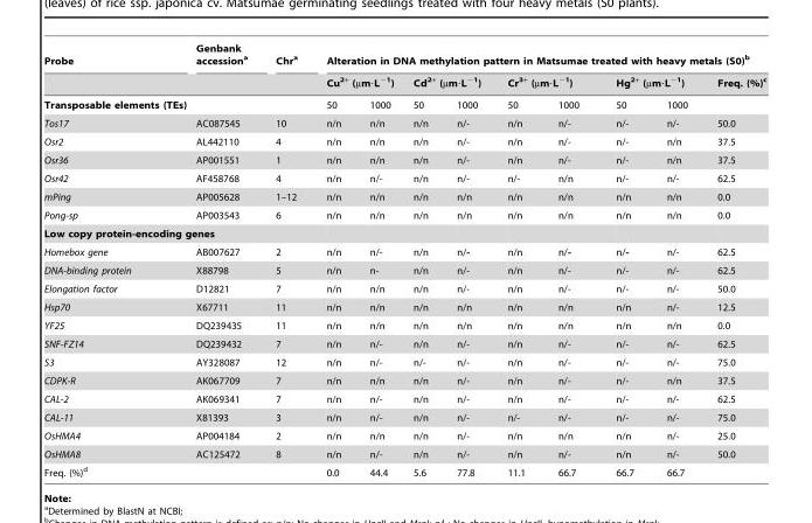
<table><thead><tr><td rowspan="2">Probe</td><td rowspan="2">Genbank accession<sup>a</sup></td><td rowspan="2">Chr<sup>a</sup></td><td colspan="9">Alteration in DNA methylation pattern in Matsumae treated with heavy metals (S0)<sup>b</sup></td></tr><tr><td colspan="2">Cu<sup>2+</sup> (µm⋅L<sup>−1</sup>)</td><td colspan="2">Cd<sup>2+</sup> (µm⋅L<sup>−1</sup>)</td><td colspan="2">Cr<sup>3+</sup> (µm⋅L<sup>−1</sup>)</td><td colspan="2">Hg<sup>2+</sup> (µm⋅L<sup>−1</sup>)</td><td rowspan="2">Freq. (%)<sup>c</sup></td></tr><tr><td colspan="3">Transposable elements (TEs)</td><td>50</td><td>1000</td><td>50</td><td>1000</td><td>50</td><td>1000</td><td>50</td><td>1000</td></tr></thead><tbody><tr><td>Tos17</td><td>AC087545</td><td>10</td><td>n/n</td><td>n/n</td><td>n/n</td><td>n/-</td><td>n/n</td><td>n/-</td><td>n/-</td><td>n/-</td><td>50.0</td></tr><tr><td>Osr2</td><td>AL442110</td><td>4</td><td>n/n</td><td>n/n</td><td>n/n</td><td>n/-</td><td>n/n</td><td>n/-</td><td>n/-</td><td>n/n</td><td>37.5</td></tr><tr><td>Osr36</td><td>AP001551</td><td>1</td><td>n/n</td><td>n/n</td><td>n/n</td><td>n/-</td><td>n/n</td><td>n/-</td><td>n/-</td><td>n/n</td><td>37.5</td></tr><tr><td>Osr42</td><td>AF458768</td><td>4</td><td>n/n</td><td>n/-</td><td>n/n</td><td>n/-</td><td>n/-</td><td>n/n</td><td>n/-</td><td>n/-</td><td>62.5</td></tr><tr><td>mPing</td><td>AP005628</td><td>1–12</td><td>n/n</td><td>n/n</td><td>n/n</td><td>n/n</td><td>n/n</td><td>n/n</td><td>n/n</td><td>n/n</td><td>0.0</td></tr><tr><td>Pong-sp</td><td>AP003543</td><td>6</td><td>n/n</td><td>n/n</td><td>n/n</td><td>n/n</td><td>n/n</td><td>n/n</td><td>n/n</td><td>n/n</td><td>0.0</td></tr><tr><td colspan="12">Low copy protein-encoding genes</td></tr><tr><td>Homebox gene</td><td>AB007627</td><td>2</td><td>n/n</td><td>n/-</td><td>n/n</td><td>n/-</td><td>n/n</td><td>n/-</td><td>n/-</td><td>n/-</td><td>62.5</td></tr><tr><td>DNA-binding protein</td><td>X88798</td><td>5</td><td>n/n</td><td>n-</td><td>n/n</td><td>n/-</td><td>n/n</td><td>n/-</td><td>n/-</td><td>n/-</td><td>62.5</td></tr><tr><td>Elongation factor</td><td>D12821</td><td>7</td><td>n/n</td><td>n/n</td><td>n/n</td><td>n/-</td><td>n/n</td><td>n/-</td><td>n/-</td><td>n/-</td><td>50.0</td></tr><tr><td>Hsp70</td><td>X67711</td><td>11</td><td>n/n</td><td>n/n</td><td>n/n</td><td>n/n</td><td>n/n</td><td>n/n</td><td>n/n</td><td>n/-</td><td>12.5</td></tr><tr><td>YF25</td><td>DQ239435</td><td>11</td><td>n/n</td><td>n/n</td><td>n/n</td><td>n/n</td><td>n/n</td><td>n/n</td><td>n/n</td><td>n/n</td><td>0.0</td></tr><tr><td>SNF-FZ14</td><td>DQ239432</td><td>7</td><td>n/n</td><td>n/-</td><td>n/n</td><td>n/-</td><td>n/n</td><td>n/-</td><td>n/-</td><td>n/-</td><td>62.5</td></tr><tr><td>S3</td><td>AY328087</td><td>12</td><td>n/n</td><td>n/-</td><td>n/-</td><td>n/-</td><td>n/n</td><td>n/-</td><td>n/-</td><td>n/-</td><td>75.0</td></tr><tr><td>CDPK-R</td><td>AK067709</td><td>7</td><td>n/n</td><td>n/n</td><td>n/n</td><td>n/-</td><td>n/n</td><td>n/-</td><td>n/-</td><td>n/n</td><td>37.5</td></tr><tr><td>CAL-2</td><td>AK069341</td><td>7</td><td>n/n</td><td>n/-</td><td>n/n</td><td>n/-</td><td>n/n</td><td>n/-</td><td>n/-</td><td>n/-</td><td>62.5</td></tr><tr><td>CAL-11</td><td>X81393</td><td>3</td><td>n/n</td><td>n/-</td><td>n/n</td><td>n/-</td><td>n/-</td><td>n/-</td><td>n/-</td><td>n/-</td><td>75.0</td></tr><tr><td>OsHMA4</td><td>AP004184</td><td>2</td><td>n/n</td><td>n/n</td><td>n/n</td><td>n/-</td><td>n/n</td><td>n/n</td><td>n/n</td><td>n/-</td><td>25.0</td></tr><tr><td>OsHMA8</td><td>AC125472</td><td>8</td><td>n/n</td><td>n/-</td><td>n/n</td><td>n/-</td><td>n/n</td><td>n/-</td><td>n/n</td><td>n/-</td><td>50.0</td></tr><tr><td>Freq. (%)<sup>d</sup></td><td></td><td></td><td>0.0</td><td>44.4</td><td>5.6</td><td>77.8</td><td>11.1</td><td>66.7</td><td>66.7</td><td>66.7</td><td></td></tr></tbody></table>